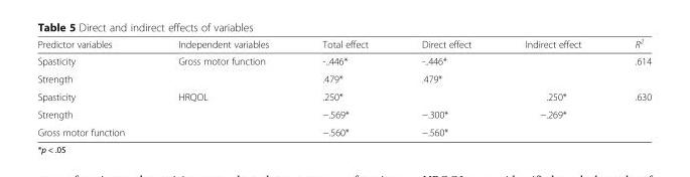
<table><thead><tr><td>Predictor variables</td><td>Independent variables</td><td>Total effect</td><td>Direct effect</td><td>Indirect effect</td><td>R<sup>2</sup></td></tr></thead><tbody><tr><td>Spasticity</td><td rowspan="2">Gross motor function</td><td>-..446*</td><td>-..446*</td><td></td><td>.614</td></tr><tr><td>Strength</td><td>.479*</td><td>.479*</td><td></td><td></td></tr><tr><td>Spasticity</td><td rowspan="3">HRQOL</td><td>.250*</td><td></td><td>.250*</td><td>.630</td></tr><tr><td>Strength</td><td>−.569*</td><td>−.300*</td><td>−.269*</td><td></td></tr><tr><td>Gross motor function</td><td>−.560*</td><td>−.560*</td><td></td><td></td></tr></tbody></table>